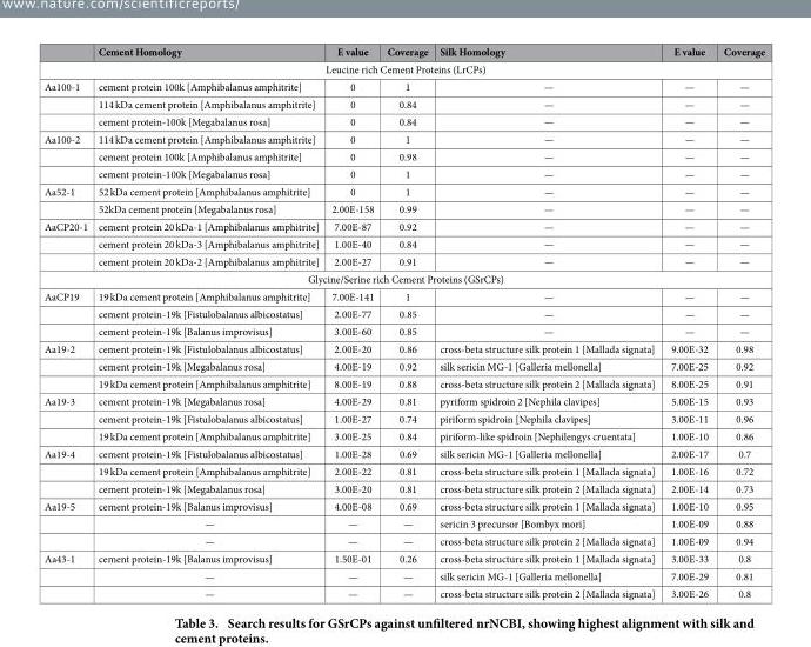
<table><thead><tr><td></td><td>Cement Homology</td><td>E value</td><td>Coverage</td><td>Silk Homology</td><td>E value</td><td>Coverage</td></tr></thead><tbody><tr><td colspan="7">Leucine rich Cement Proteins (LrCPs)</td></tr><tr><td rowspan="3">Aa100-1</td><td>cement protein 100k [Amphibalanus amphitrite]</td><td>0</td><td>1</td><td>—</td><td>—</td><td>—</td></tr><tr><td>114 kDa cement protein [Amphibalanus amphitrite]</td><td>0</td><td>0.84</td><td>—</td><td>—</td><td>—</td></tr><tr><td>cement protein-100k [Megabalanus rosa]</td><td>0</td><td>0.84</td><td>—</td><td>—</td><td>—</td></tr><tr><td rowspan="3">Aa100-2</td><td>114 kDa cement protein [Amphibalanus amphitrite]</td><td>0</td><td>1</td><td>—</td><td>—</td><td>—</td></tr><tr><td>cement protein 100k [Amphibalanus amphitrite]</td><td>0</td><td>0.98</td><td>—</td><td>—</td><td>—</td></tr><tr><td>cement protein-100k [Megabalanus rosa]</td><td>0</td><td>1</td><td>—</td><td>—</td><td>—</td></tr><tr><td rowspan="2">Aa52-1</td><td>52 kDa cement protein [Amphibalanus amphitrite]</td><td>0</td><td>1</td><td>—</td><td>—</td><td>—</td></tr><tr><td>52kDa cement protein [Megabalanus rosa]</td><td>2.00E-158</td><td>0.99</td><td>—</td><td>—</td><td>—</td></tr><tr><td rowspan="3">AaCP20-1</td><td>cement protein 20 kDa-1 [Amphibalanus amphitrite]</td><td>7.00E-87</td><td>0.92</td><td>—</td><td>—</td><td>—</td></tr><tr><td>cement protein 20 kDa-3 [Amphibalanus amphitrite]</td><td>1.00E-40</td><td>0.84</td><td>—</td><td>—</td><td>—</td></tr><tr><td>cement protein 20 kDa-2 [Amphibalanus amphitrite]</td><td>2.00E-27</td><td>0.91</td><td>—</td><td>—</td><td>—</td></tr><tr><td colspan="7">Glycine/Serine rich Cement Proteins (GSrCPs)</td></tr><tr><td rowspan="3">AaCP19</td><td>19 kDa cement protein [Amphibalanus amphitrite]</td><td>7.00E-141</td><td>1</td><td>—</td><td>—</td><td>—</td></tr><tr><td>cement protein-19k [Fistulobalanus albicostatus]</td><td>2.00E-77</td><td>0.85</td><td>—</td><td>—</td><td>—</td></tr><tr><td>cement protein-19k [Balanus improvisus]</td><td>3.00E-60</td><td>0.85</td><td>—</td><td>—</td><td>—</td></tr><tr><td rowspan="3">Aa19-2</td><td>cement protein-19k [Fistulobalanus albicostatus]</td><td>2.00E-20</td><td>0.86</td><td>cross-beta structure silk protein 1 [Mallada signata]</td><td>9.00E-32</td><td>0.98</td></tr><tr><td>cement protein-19k [Megabalanus rosa]</td><td>4.00E-19</td><td>0.92</td><td>silk sericin MG-1 [Galleria mellonella]</td><td>7.00E-25</td><td>0.92</td></tr><tr><td>19 kDa cement protein [Amphibalanus amphitrite]</td><td>8.00E-19</td><td>0.88</td><td>cross-beta structure silk protein 2 [Mallada signata]</td><td>8.00E-25</td><td>0.91</td></tr><tr><td rowspan="3">Aa19-3</td><td>cement protein-19k [Megabalanus rosa]</td><td>4.00E-29</td><td>0.81</td><td>pyriform spidroin 2 [Nephila clavipes]</td><td>5.00E-15</td><td>0.93</td></tr><tr><td>cement protein-19k [Fistulobalanus albicostatus]</td><td>1.00E-27</td><td>0.74</td><td>piriform spidroin [Nephila clavipes]</td><td>3.00E-11</td><td>0.96</td></tr><tr><td>19 kDa cement protein [Amphibalanus amphitrite]</td><td>3.00E-25</td><td>0.84</td><td>piriform-like spidroin [Nephilengys cruentata]</td><td>1.00E-10</td><td>0.86</td></tr><tr><td rowspan="3">Aa19-4</td><td>cement protein-19k [Fistulobalanus albicostatus]</td><td>1.00E-28</td><td>0.69</td><td>silk sericin MG-1 [Galleria mellonella]</td><td>2.00E-17</td><td>0.7</td></tr><tr><td>19 kDa cement protein [Amphibalanus amphitrite]</td><td>2.00E-22</td><td>0.81</td><td>cross-beta structure silk protein 1 [Mallada signata]</td><td>1.00E-16</td><td>0.72</td></tr><tr><td>cement protein-19k [Megabalanus rosa]</td><td>3.00E-20</td><td>0.81</td><td>cross-beta structure silk protein 2 [Mallada signata]</td><td>2.00E-14</td><td>0.73</td></tr><tr><td rowspan="3">Aa19-5</td><td>cement protein-19k [Balanus improvisus]</td><td>4.00E-08</td><td>0.69</td><td>cross-beta structure silk protein 1 [Mallada signata]</td><td>1.00E-10</td><td>0.95</td></tr><tr><td>—</td><td>—</td><td>—</td><td>sericin 3 precursor [Bombyx mori]</td><td>1.00E-09</td><td>0.88</td></tr><tr><td>—</td><td>—</td><td>—</td><td>cross-beta structure silk protein 2 [Mallada signata]</td><td>1.00E-09</td><td>0.94</td></tr><tr><td rowspan="3">Aa43-1</td><td>cement protein-19k [Balanus improvisus]</td><td>1.50E-01</td><td>0.26</td><td>cross-beta structure silk protein 1 [Mallada signata]</td><td>3.00E-33</td><td>0.8</td></tr><tr><td>—</td><td>—</td><td>—</td><td>silk sericin MG-1 [Galleria mellonella]</td><td>7.00E-29</td><td>0.81</td></tr><tr><td>—</td><td>—</td><td>—</td><td>cross-beta structure silk protein 2 [Mallada signata]</td><td>3.00E-26</td><td>0.8</td></tr></tbody></table>